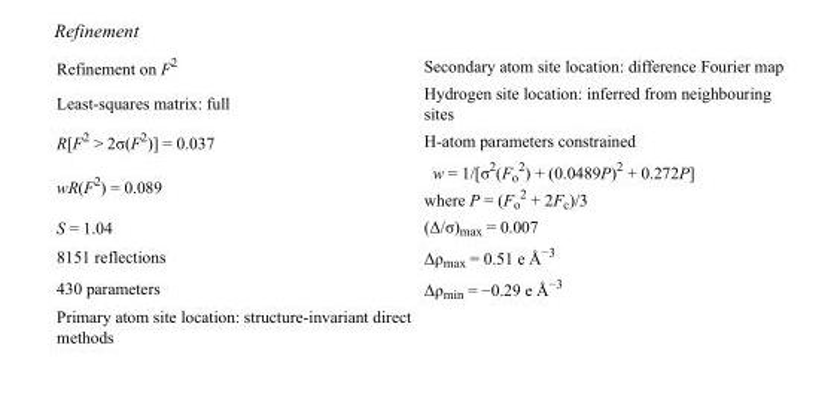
<table><tbody><tr><td>Refinement on F<sup>2</sup></td><td>Secondary atom site location: difference Fourier map</td></tr><tr><td>Least-squares matrix: full</td><td>Hydrogen site location: inferred from neighbouring sites</td></tr><tr><td>R[F<sup>2</sup> &gt; 2σ(F<sup>2</sup>)] = 0.037</td><td>H-atom parameters constrained</td></tr><tr><td>wR(F<sup>2</sup>) = 0.089</td><td>w = 1/[σ<sup>2</sup>(F<sub>o</sub> <sup>2</sup>) + (0.0489P)<sup>2</sup> + 0.272P] where P = (F<sub>o</sub> <sup>2</sup> + 2F<sub>c</sub>)/3</td></tr><tr><td>S = 1.04</td><td>(Δ/σ)<sub>max</sub> = 0.007</td></tr><tr><td>8151 reflections</td><td>Δρ<sub>max</sub> = 0.51 e Å<sup>−3</sup></td></tr><tr><td>430 parameters</td><td>Δρ<sub>min</sub> = −0.29 e Å<sup>−3</sup></td></tr><tr><td>Primary atom site location: structure-invariant direct methods</td><td></td></tr></tbody></table>